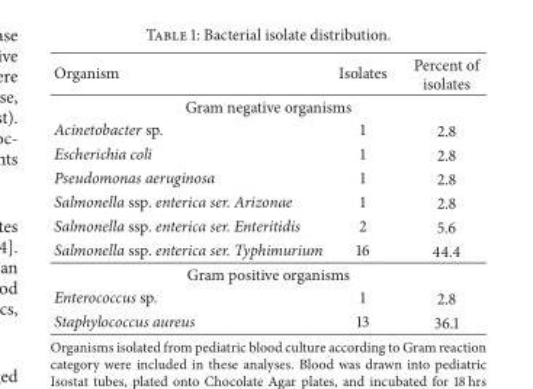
<table><thead><tr><td>Organism</td><td>Isolates</td><td>Percent of isolates</td></tr></thead><tbody><tr><td colspan="3">Gram negative organisms</td></tr><tr><td>Acinetobacter sp.</td><td>1</td><td>2.8</td></tr><tr><td>Escherichia coli</td><td>1</td><td>2.8</td></tr><tr><td>Pseudomonas aeruginosa</td><td>1</td><td>2.8</td></tr><tr><td>Salmonella ssp. enterica ser. Arizonae</td><td>1</td><td>2.8</td></tr><tr><td>Salmonella ssp. enterica ser. Enteritidis</td><td>2</td><td>5.6</td></tr><tr><td>Salmonella ssp. enterica ser. Typhimurium</td><td>16</td><td>44.4</td></tr><tr><td colspan="3">Gram positive organisms</td></tr><tr><td>Enterococcus sp.</td><td>1</td><td>2.8</td></tr><tr><td>Staphylococcus aureus</td><td>13</td><td>36.1</td></tr></tbody></table>